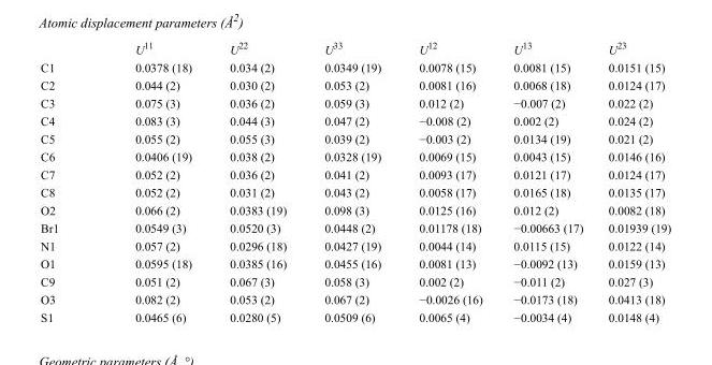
<table><thead><tr><td></td><td>U<sup>11</sup></td><td>U<sup>22</sup></td><td>U<sup>33</sup></td><td>U<sup>12</sup></td><td>U<sup>13</sup></td><td>U<sup>23</sup></td></tr></thead><tbody><tr><td>C1</td><td>0.0378 (18)</td><td>0.034 (2)</td><td>0.0349 (19)</td><td>0.0078 (15)</td><td>0.0081 (15)</td><td>0.0151 (15)</td></tr><tr><td>C2</td><td>0.044 (2)</td><td>0.030 (2)</td><td>0.053 (2)</td><td>0.0081 (16)</td><td>0.0068 (18)</td><td>0.0124 (17)</td></tr><tr><td>C3</td><td>0.075 (3)</td><td>0.036 (2)</td><td>0.059 (3)</td><td>0.012 (2)</td><td>−0.007 (2)</td><td>0.022 (2)</td></tr><tr><td>C4</td><td>0.083 (3)</td><td>0.044 (3)</td><td>0.047 (2)</td><td>−0.008 (2)</td><td>0.002 (2)</td><td>0.024 (2)</td></tr><tr><td>C5</td><td>0.055 (2)</td><td>0.055 (3)</td><td>0.039 (2)</td><td>−0.003 (2)</td><td>0.0134 (19)</td><td>0.021 (2)</td></tr><tr><td>C6</td><td>0.0406 (19)</td><td>0.038 (2)</td><td>0.0328 (19)</td><td>0.0069 (15)</td><td>0.0043 (15)</td><td>0.0146 (16)</td></tr><tr><td>C7</td><td>0.052 (2)</td><td>0.036 (2)</td><td>0.041 (2)</td><td>0.0093 (17)</td><td>0.0121 (17)</td><td>0.0124 (17)</td></tr><tr><td>C8</td><td>0.052 (2)</td><td>0.031 (2)</td><td>0.043 (2)</td><td>0.0058 (17)</td><td>0.0165 (18)</td><td>0.0135 (17)</td></tr><tr><td>O2</td><td>0.066 (2)</td><td>0.0383 (19)</td><td>0.098 (3)</td><td>0.0125 (16)</td><td>0.012 (2)</td><td>0.0082 (18)</td></tr><tr><td>Br1</td><td>0.0549 (3)</td><td>0.0520 (3)</td><td>0.0448 (2)</td><td>0.01178 (18)</td><td>−0.00663 (17)</td><td>0.01939 (19)</td></tr><tr><td>N1</td><td>0.057 (2)</td><td>0.0296 (18)</td><td>0.0427 (19)</td><td>0.0044 (14)</td><td>0.0115 (15)</td><td>0.0122 (14)</td></tr><tr><td>O1</td><td>0.0595 (18)</td><td>0.0385 (16)</td><td>0.0455 (16)</td><td>0.0081 (13)</td><td>−0.0092 (13)</td><td>0.0159 (13)</td></tr><tr><td>C9</td><td>0.051 (2)</td><td>0.067 (3)</td><td>0.058 (3)</td><td>0.002 (2)</td><td>−0.011 (2)</td><td>0.027 (3)</td></tr><tr><td>O3</td><td>0.082 (2)</td><td>0.053 (2)</td><td>0.067 (2)</td><td>−0.0026 (16)</td><td>−0.0173 (18)</td><td>0.0413 (18)</td></tr><tr><td>S1</td><td>0.0465 (6)</td><td>0.0280 (5)</td><td>0.0509 (6)</td><td>0.0065 (4)</td><td>−0.0034 (4)</td><td>0.0148 (4)</td></tr></tbody></table>